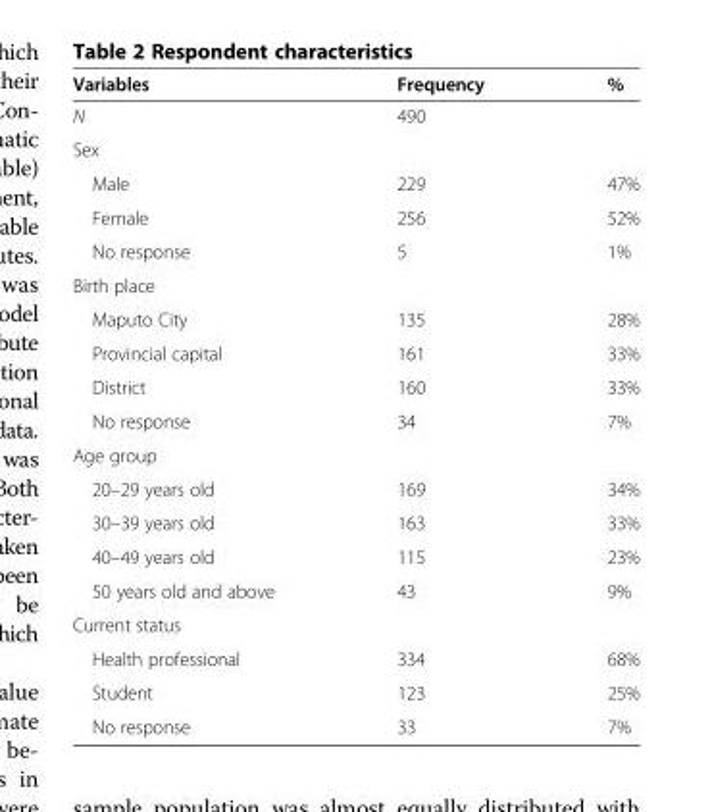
<table><thead><tr><td>Variables</td><td>Frequency</td><td>%</td></tr></thead><tbody><tr><td>N</td><td>490</td><td></td></tr><tr><td colspan="3">Sex</td></tr><tr><td>Male</td><td>229</td><td>47%</td></tr><tr><td>Female</td><td>256</td><td>52%</td></tr><tr><td>No response</td><td>5</td><td>1%</td></tr><tr><td colspan="3">Birth place</td></tr><tr><td>Maputo City</td><td>135</td><td>28%</td></tr><tr><td>Provincial capital</td><td>161</td><td>33%</td></tr><tr><td>District</td><td>160</td><td>33%</td></tr><tr><td>No response</td><td>34</td><td>7%</td></tr><tr><td colspan="3">Age group</td></tr><tr><td>20–29 years old</td><td>169</td><td>34%</td></tr><tr><td>30–39 years old</td><td>163</td><td>33%</td></tr><tr><td>40–49 years old</td><td>115</td><td>23%</td></tr><tr><td>50 years old and above</td><td>43</td><td>9%</td></tr><tr><td colspan="3">Current status</td></tr><tr><td>Health professional</td><td>334</td><td>68%</td></tr><tr><td>Student</td><td>123</td><td>25%</td></tr><tr><td>No response</td><td>33</td><td>7%</td></tr></tbody></table>